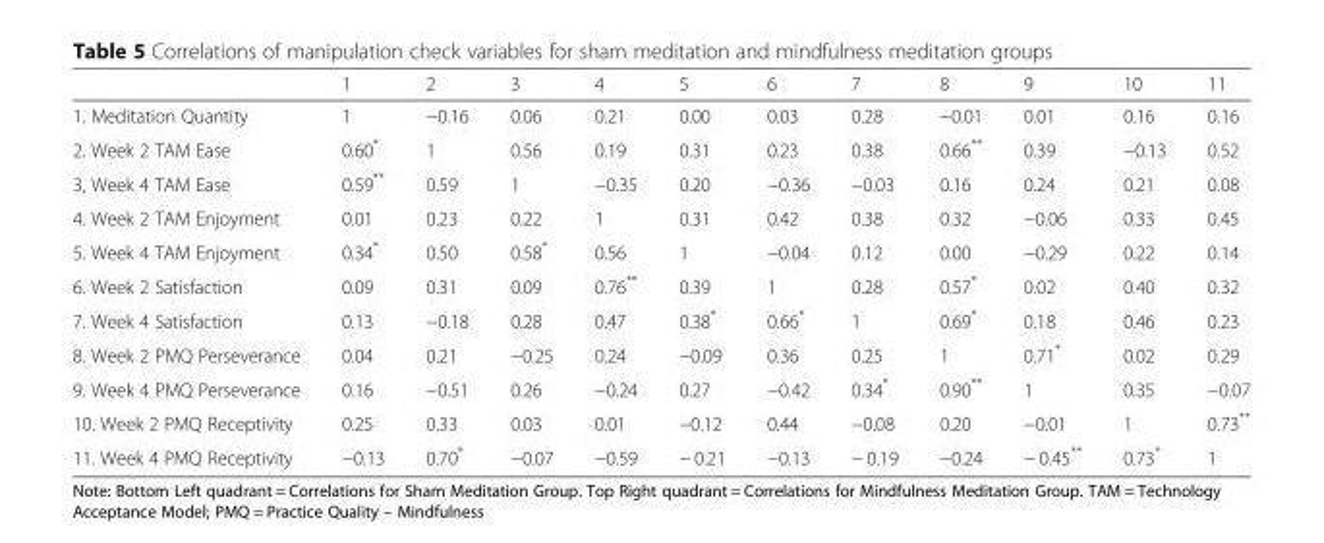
<table><thead><tr><td></td><td>1</td><td>2</td><td>3</td><td>4</td><td>5</td><td>6</td><td>7</td><td>8</td><td>9</td><td>10</td><td>11</td></tr></thead><tbody><tr><td>1. Meditation Quantity</td><td>1</td><td>−0.16</td><td>0.06</td><td>0.21</td><td>0.00</td><td>0.03</td><td>0.28</td><td>−0.01</td><td>0.01</td><td>0.16</td><td>0.16</td></tr><tr><td>2. Week 2 TAM Ease</td><td>0.60*</td><td>1</td><td>0.56</td><td>0.19</td><td>0.31</td><td>0.23</td><td>0.38</td><td>0.66**</td><td>0.39</td><td>−0.13</td><td>0.52</td></tr><tr><td>3, Week 4 TAM Ease</td><td>0.59**</td><td>0.59</td><td>1</td><td>−0.35</td><td>0.20</td><td>−0.36</td><td>−0.03</td><td>0.16</td><td>0.24</td><td>0.21</td><td>0.08</td></tr><tr><td>4. Week 2 TAM Enjoyment</td><td>0.01</td><td>0.23</td><td>0.22</td><td>1</td><td>0.31</td><td>0.42</td><td>0.38</td><td>0.32</td><td>−0.06</td><td>0.33</td><td>0.45</td></tr><tr><td>5. Week 4 TAM Enjoyment</td><td>0.34*</td><td>0.50</td><td>0.58*</td><td>0.56</td><td>1</td><td>−0.04</td><td>0.12</td><td>0.00</td><td>−0.29</td><td>0.22</td><td>0.14</td></tr><tr><td>6. Week 2 Satisfaction</td><td>0.09</td><td>0.31</td><td>0.09</td><td>0.76**</td><td>0.39</td><td>1</td><td>0.28</td><td>0.57*</td><td>0.02</td><td>0.40</td><td>0.32</td></tr><tr><td>7. Week 4 Satisfaction</td><td>0.13</td><td>−0.18</td><td>0.28</td><td>0.47</td><td>0.38*</td><td>0.66*</td><td>1</td><td>0.69*</td><td>0.18</td><td>0.46</td><td>0.23</td></tr><tr><td>8. Week 2 PMQ Perseverance</td><td>0.04</td><td>0.21</td><td>−0.25</td><td>0.24</td><td>−0.09</td><td>0.36</td><td>0.25</td><td>1</td><td>0.71*</td><td>0.02</td><td>0.29</td></tr><tr><td>9. Week 4 PMQ Perseverance</td><td>0.16</td><td>−0.51</td><td>0.26</td><td>−0.24</td><td>0.27</td><td>−0.42</td><td>0.34*</td><td>0.90**</td><td>1</td><td>0.35</td><td>−0.07</td></tr><tr><td>10. Week 2 PMQ Receptivity</td><td>0.25</td><td>0.33</td><td>0.03</td><td>0.01</td><td>−0.12</td><td>0.44</td><td>−0.08</td><td>0.20</td><td>−0.01</td><td>1</td><td>0.73**</td></tr><tr><td>11. Week 4 PMQ Receptivity</td><td>−0.13</td><td>0.70*</td><td>−0.07</td><td>−0.59</td><td>− 0.21</td><td>−0.13</td><td>− 0.19</td><td>−0.24</td><td>− 0.45**</td><td>0.73*</td><td>1</td></tr></tbody></table>